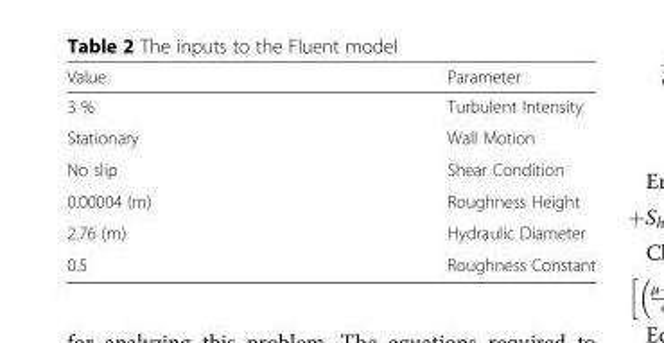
<table><thead><tr><td>Value</td><td>Parameter</td></tr></thead><tbody><tr><td>3 %</td><td>Turbulent Intensity</td></tr><tr><td>Stationary</td><td>Wall Motion</td></tr><tr><td>No slip</td><td>Shear Condition</td></tr><tr><td>0.00004 (m)</td><td>Roughness Height</td></tr><tr><td>2.76 (m)</td><td>Hydraulic Diameter</td></tr><tr><td>0.5</td><td>Roughness Constant</td></tr></tbody></table>